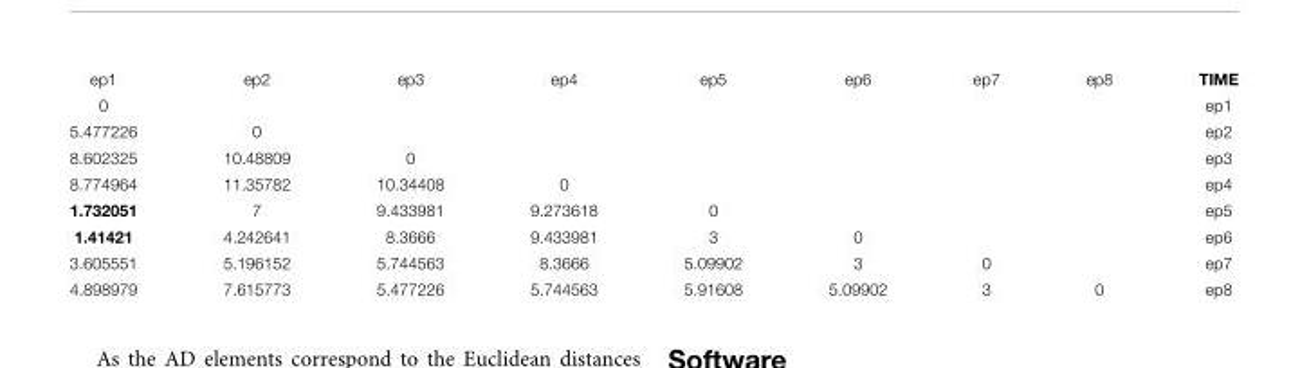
<table><tbody><tr><td>ep1</td><td>ep2</td><td>ep3</td><td>ep4</td><td>ep5</td><td>ep6</td><td>ep7</td><td>ep8</td><td>TIME</td></tr><tr><td>0</td><td></td><td></td><td></td><td></td><td></td><td></td><td></td><td>ep1</td></tr><tr><td>5.477226</td><td>0</td><td></td><td></td><td></td><td></td><td></td><td></td><td>ep2</td></tr><tr><td>8.602325</td><td>10.48809</td><td>0</td><td></td><td></td><td></td><td></td><td></td><td>ep3</td></tr><tr><td>8.774964</td><td>11.35782</td><td>10.34408</td><td>0</td><td></td><td></td><td></td><td></td><td>ep4</td></tr><tr><td>1.732051</td><td>7</td><td>9.433981</td><td>9.273618</td><td>0</td><td></td><td></td><td></td><td>ep5</td></tr><tr><td>1.41421</td><td>4.242641</td><td>8.3666</td><td>9.433981</td><td>3</td><td>0</td><td></td><td></td><td>ep6</td></tr><tr><td>3.605551</td><td>5.196152</td><td>5.744563</td><td>8.3666</td><td>5.09902</td><td>3</td><td>0</td><td></td><td>ep7</td></tr><tr><td>4.898979</td><td>7.615773</td><td>5.477226</td><td>5.744563</td><td>5.91608</td><td>5.09902</td><td>3</td><td>0</td><td>ep8</td></tr></tbody></table>